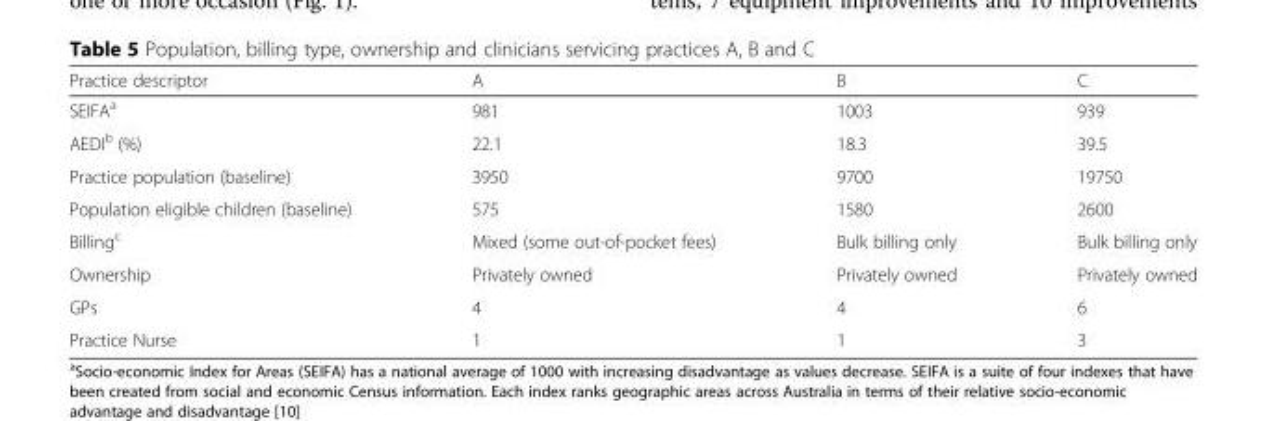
<table><thead><tr><td>Practice descriptor</td><td>A</td><td>B</td><td>C</td></tr></thead><tbody><tr><td>SEIFA<sup>a</sup></td><td>981</td><td>1003</td><td>939</td></tr><tr><td>AEDI<sup>b</sup> (%)</td><td>22.1</td><td>18.3</td><td>39.5</td></tr><tr><td>Practice population (baseline)</td><td>3950</td><td>9700</td><td>19750</td></tr><tr><td>Population eligible children (baseline)</td><td>575</td><td>1580</td><td>2600</td></tr><tr><td>Billing<sup>c</sup></td><td>Mixed (some out-of-pocket fees)</td><td>Bulk billing only</td><td>Bulk billing only</td></tr><tr><td>Ownership</td><td>Privately owned</td><td>Privately owned</td><td>Privately owned</td></tr><tr><td>GPs</td><td>4</td><td>4</td><td>6</td></tr><tr><td>Practice Nurse</td><td>1</td><td>1</td><td>3</td></tr></tbody></table>